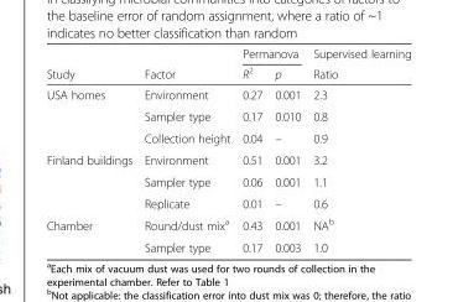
<table><thead><tr><td rowspan="2">Study</td><td rowspan="2">Factor</td><td colspan="2">Permanova</td><td rowspan="2">Supervised learning Ratio</td></tr><tr><td>R<sup>2</sup></td><td>p</td></tr></thead><tbody><tr><td rowspan="3">USA homes</td><td>Environment</td><td>0.27</td><td>0.001</td><td>2.3</td></tr><tr><td>Sampler type</td><td>0.17</td><td>0.010</td><td>0.8</td></tr><tr><td>Collection height</td><td>0.04</td><td>–</td><td>0.9</td></tr><tr><td rowspan="3">Finland buildings</td><td>Environment</td><td>0.51</td><td>0.001</td><td>3.2</td></tr><tr><td>Sampler type</td><td>0.06</td><td>0.001</td><td>1.1</td></tr><tr><td>Replicate</td><td>0.01</td><td>–</td><td>0.6</td></tr><tr><td rowspan="2">Chamber</td><td>Round/dust mix<sup>a</sup></td><td>0.43</td><td>0.001</td><td>NA<sup>b</sup></td></tr><tr><td>Sampler type</td><td>0.17</td><td>0.003</td><td>1.0</td></tr></tbody></table>